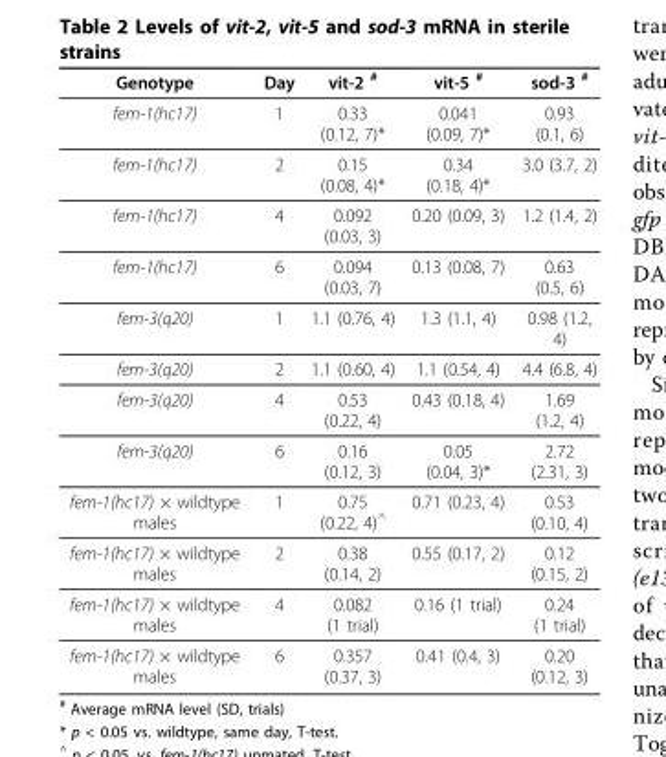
<table><thead><tr><td>Genotype</td><td>Day</td><td>vit-2 <sup>#</sup></td><td>vit-5 <sup>#</sup></td><td>sod-3 <sup>#</sup></td></tr></thead><tbody><tr><td>fem-1(hc17)</td><td>1</td><td>0.33 (0.12, 7)*</td><td>0.041 (0.09, 7)*</td><td>0.93 (0.1, 6)</td></tr><tr><td>fem-1(hc17)</td><td>2</td><td>0.15 (0.08, 4)*</td><td>0.34 (0.18, 4)*</td><td>3.0 (3.7, 2)</td></tr><tr><td>fem-1(hc17)</td><td>4</td><td>0.092 (0.03, 3)</td><td>0.20 (0.09, 3)</td><td>1.2 (1.4, 2)</td></tr><tr><td>fem-1(hc17)</td><td>6</td><td>0.094 (0.03, 7)</td><td>0.13 (0.08, 7)</td><td>0.63 (0.5, 6)</td></tr><tr><td>fem-3(q20)</td><td>1</td><td>1.1 (0.76, 4)</td><td>1.3 (1.1, 4)</td><td>0.98 (1.2, 4)</td></tr><tr><td>fem-3(q20)</td><td>2</td><td>1.1 (0.60, 4)</td><td>1.1 (0.54, 4)</td><td>4.4 (6.8, 4)</td></tr><tr><td>fem-3(q20)</td><td>4</td><td>0.53 (0.22, 4)</td><td>0.43 (0.18, 4)</td><td>1.69 (1.2, 4)</td></tr><tr><td>fem-3(q20)</td><td>6</td><td>0.16 (0.12, 3)</td><td>0.05 (0.04, 3)*</td><td>2.72 (2.31, 3)</td></tr><tr><td>fem-1(hc17) × wildtype males</td><td>1</td><td>0.75 (0.22, 4)<sup>^</sup></td><td>0.71 (0.23, 4)</td><td>0.53 (0.10, 4)</td></tr><tr><td>fem-1(hc17) × wildtype males</td><td>2</td><td>0.38 (0.14, 2)</td><td>0.55 (0.17, 2)</td><td>0.12 (0.15, 2)</td></tr><tr><td>fem-1(hc17) × wildtype males</td><td>4</td><td>0.082 (1 trial)</td><td>0.16 (1 trial)</td><td>0.24 (1 trial)</td></tr><tr><td>fem-1(hc17) × wildtype males</td><td>6</td><td>0.357 (0.37, 3)</td><td>0.41 (0.4, 3)</td><td>0.20 (0.12, 3)</td></tr></tbody></table>